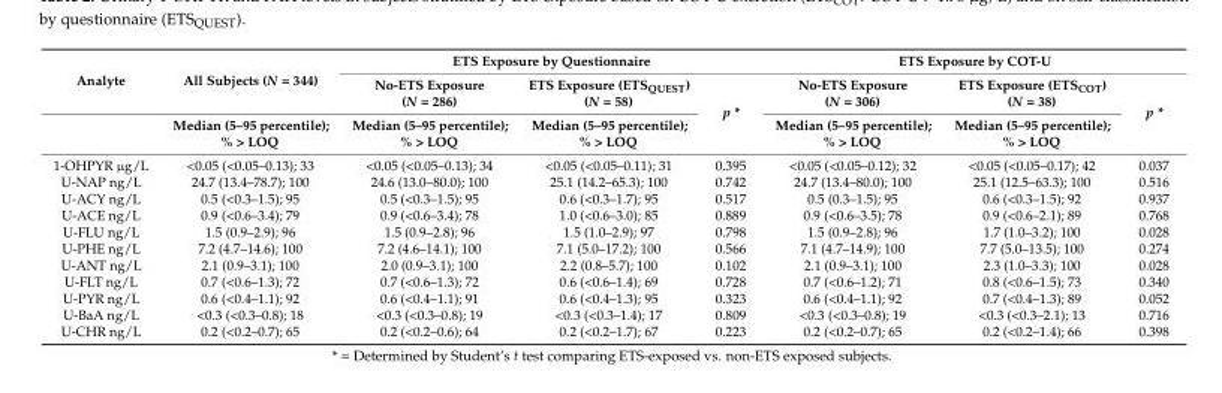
<table><thead><tr><td rowspan="3">Analyte</td><td rowspan="3">All Subjects (N = 344) Median (5–95 percentile); % &gt; LOQ</td><td colspan="3">ETS Exposure by Questionnaire</td><td colspan="3">ETS Exposure by COT-U</td></tr><tr><td rowspan="2">No-ETS Exposure (N = 286) Median (5–95 percentile); % &gt; LOQ</td><td rowspan="2">ETS Exposure (ETS<sub>QUEST</sub>) (N = 58) Median (5–95 percentile); % &gt; LOQ</td><td rowspan="2">p *</td><td rowspan="2">No-ETS Exposure (N = 306) Median (5–95 percentile); % &gt; LOQ</td><td rowspan="2">ETS Exposure (ETS<sub>COT</sub>) (N = 38) Median (5–95 percentile); % &gt; LOQ</td><td rowspan="2">p *</td></tr><tr></tr></thead><tbody><tr><td>1-OHPYR µg/L</td><td>&lt;0.05 (&lt;0.05–0.13); 33</td><td>&lt;0.05 (&lt;0.05–0.13); 34</td><td>&lt;0.05 (&lt;0.05–0.11); 31</td><td>0.395</td><td>&lt;0.05 (&lt;0.05–0.12); 32</td><td>&lt;0.05 (&lt;0.05–0.17); 42</td><td>0.037</td></tr><tr><td>U-NAP ng/L</td><td>24.7 (13.4–78.7); 100</td><td>24.6 (13.0–80.0); 100</td><td>25.1 (14.2–65.3); 100</td><td>0.742</td><td>24.7 (13.4–80.0); 100</td><td>25.1 (12.5–63.3); 100</td><td>0.516</td></tr><tr><td>U-ACY ng/L</td><td>0.5 (&lt;0.3–1.5); 95</td><td>0.5 (&lt;0.3–1.5); 95</td><td>0.6 (&lt;0.3–1.7); 95</td><td>0.517</td><td>0.5 (0.3–1.5); 95</td><td>0.6 (&lt;0.3–1.5); 92</td><td>0.937</td></tr><tr><td>U-ACE ng/L</td><td>0.9 (&lt;0.6–3.4); 79</td><td>0.9 (&lt;0.6–3.4); 78</td><td>1.0 (&lt;0.6–3.0); 85</td><td>0.889</td><td>0.9 (&lt;0.6–3.5); 78</td><td>0.9 (&lt;0.6–2.1); 89</td><td>0.768</td></tr><tr><td>U-FLU ng/L</td><td>1.5 (0.9–2.9); 96</td><td>1.5 (0.9–2.8); 96</td><td>1.5 (1.0–2.9); 97</td><td>0.798</td><td>1.5 (0.9–2.8); 96</td><td>1.7 (1.0–3.2); 100</td><td>0.028</td></tr><tr><td>U-PHE ng/L</td><td>7.2 (4.7–14.6); 100</td><td>7.2 (4.6–14.1); 100</td><td>7.1 (5.0–17.2); 100</td><td>0.566</td><td>7.1 (4.7–14.9); 100</td><td>7.7 (5.0–13.5); 100</td><td>0.274</td></tr><tr><td>U-ANT ng/L</td><td>2.1 (0.9–3.1); 100</td><td>2.0 (0.9–3.1); 100</td><td>2.2 (0.8–5.7); 100</td><td>0.102</td><td>2.1 (0.9–3.1); 100</td><td>2.3 (1.0–3.3); 100</td><td>0.028</td></tr><tr><td>U-FLT ng/L</td><td>0.7 (&lt;0.6–1.3); 72</td><td>0.7 (&lt;0.6–1.3); 72</td><td>0.6 (&lt;0.6–1.4); 69</td><td>0.728</td><td>0.7 (&lt;0.6–1.2); 71</td><td>0.8 (&lt;0.6–1.5); 73</td><td>0.340</td></tr><tr><td>U-PYR ng/L</td><td>0.6 (&lt;0.4–1.1); 92</td><td>0.6 (&lt;0.4–1.1); 91</td><td>0.6 (&lt;0.4–1.3); 95</td><td>0.323</td><td>0.6 (&lt;0.4–1.1); 92</td><td>0.7 (&lt;0.4–1.3); 89</td><td>0.052</td></tr><tr><td>U-BaA ng/L</td><td>&lt;0.3 (&lt;0.3–0.8); 18</td><td>&lt;0.3 (&lt;0.3–0.8); 19</td><td>&lt;0.3 (&lt;0.3–1.4); 17</td><td>0.809</td><td>&lt;0.3 (&lt;0.3–0.8); 19</td><td>&lt;0.3 (&lt;0.3–2.1); 13</td><td>0.716</td></tr><tr><td>U-CHR ng/L</td><td>0.2 (&lt;0.2–0.7); 65</td><td>0.2 (&lt;0.2–0.6); 64</td><td>0.2 (&lt;0.2–1.7); 67</td><td>0.223</td><td>0.2 (&lt;0.2–0.7); 65</td><td>0.2 (&lt;0.2–1.4); 66</td><td>0.398</td></tr></tbody></table>